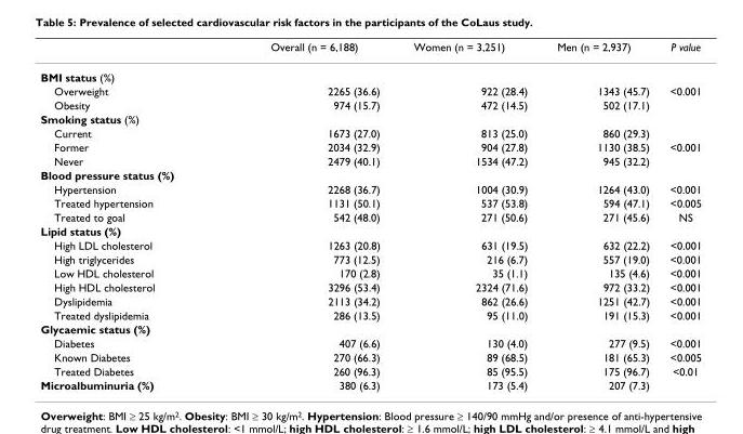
<table><thead><tr><td></td><td>Overall (n = 6,188)</td><td>Women (n = 3,251)</td><td>Men (n = 2,937)</td><td>P value</td></tr></thead><tbody><tr><td colspan="5">BMI status (%)</td></tr><tr><td>Overweight</td><td>2265 (36.6)</td><td>922 (28.4)</td><td>1343 (45.7)</td><td>&lt;0.001</td></tr><tr><td>Obesity</td><td>974 (15.7)</td><td>472 (14.5)</td><td>502 (17.1)</td><td></td></tr><tr><td colspan="5">Smoking status (%)</td></tr><tr><td>Current</td><td>1673 (27.0)</td><td>813 (25.0)</td><td>860 (29.3)</td><td></td></tr><tr><td>Former</td><td>2034 (32.9)</td><td>904 (27.8)</td><td>1130 (38.5)</td><td>&lt;0.001</td></tr><tr><td>Never</td><td>2479 (40.1)</td><td>1534 (47.2)</td><td>945 (32.2)</td><td></td></tr><tr><td colspan="5">Blood pressure status (%)</td></tr><tr><td>Hypertension</td><td>2268 (36.7)</td><td>1004 (30.9)</td><td>1264 (43.0)</td><td>&lt;0.001</td></tr><tr><td>Treated hypertension</td><td>1131 (50.1)</td><td>537 (53.8)</td><td>594 (47.1)</td><td>&lt;0.005</td></tr><tr><td>Treated to goal</td><td>542 (48.0)</td><td>271 (50.6)</td><td>271 (45.6)</td><td>NS</td></tr><tr><td colspan="5">Lipid status (%)</td></tr><tr><td>High LDL cholesterol</td><td>1263 (20.8)</td><td>631 (19.5)</td><td>632 (22.2)</td><td>&lt;0.001</td></tr><tr><td>High triglycerides</td><td>773 (12.5)</td><td>216 (6.7)</td><td>557 (19.0)</td><td>&lt;0.001</td></tr><tr><td>Low HDL cholesterol</td><td>170 (2.8)</td><td>35 (1.1)</td><td>135 (4.6)</td><td>&lt;0.001</td></tr><tr><td>High HDL cholesterol</td><td>3296 (53.4)</td><td>2324 (71.6)</td><td>972 (33.2)</td><td>&lt;0.001</td></tr><tr><td>Dyslipidemia</td><td>2113 (34.2)</td><td>862 (26.6)</td><td>1251 (42.7)</td><td>&lt;0.001</td></tr><tr><td>Treated dyslipidemia</td><td>286 (13.5)</td><td>95 (11.0)</td><td>191 (15.3)</td><td>&lt;0.001</td></tr><tr><td colspan="5">Glycaemic status (%)</td></tr><tr><td>Diabetes</td><td>407 (6.6)</td><td>130 (4.0)</td><td>277 (9.5)</td><td>&lt;0.001</td></tr><tr><td>Known Diabetes</td><td>270 (66.3)</td><td>89 (68.5)</td><td>181 (65.3)</td><td>&lt;0.005</td></tr><tr><td>Treated Diabetes</td><td>260 (96.3)</td><td>85 (95.5)</td><td>175 (96.7)</td><td>&lt;0.01</td></tr><tr><td>Microalbuminuria (%)</td><td>380 (6.3)</td><td>173 (5.4)</td><td>207 (7.3)</td><td></td></tr></tbody></table>